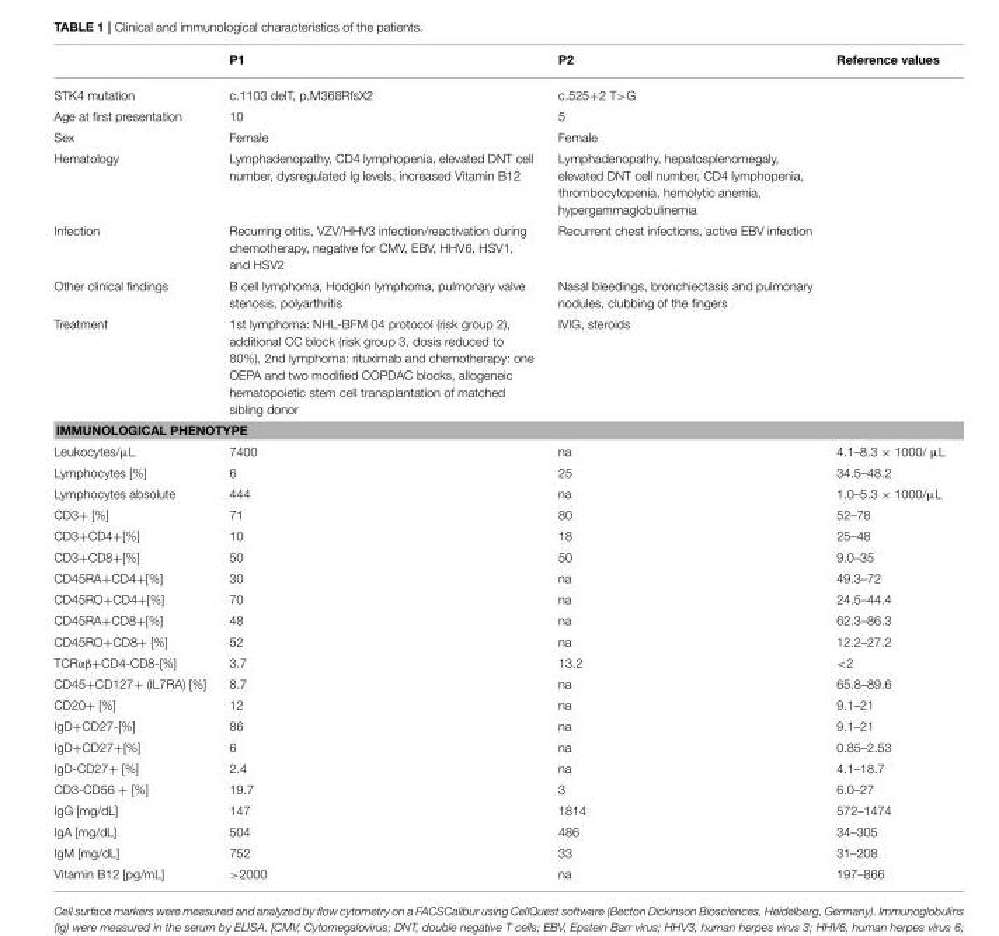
<table><thead><tr><td></td><td>P1</td><td>P2</td><td>Reference values</td></tr></thead><tbody><tr><td>STK4 mutation</td><td>c.1103 delT, p.M368RfsX2</td><td>c.525+2 T&gt;G</td><td></td></tr><tr><td>Age at first presentation</td><td>10</td><td>5</td><td></td></tr><tr><td>Sex</td><td>Female</td><td>Female</td><td></td></tr><tr><td>Hematology</td><td>Lymphadenopathy, CD4 lymphopenia, elevated DNT cell number, dysregulated Ig levels, increased Vitamin B12</td><td>Lymphadenopathy, hepatosplenomegaly, elevated DNT cell number, CD4 lymphopenia, thrombocytopenia, hemolytic anemia, hypergammaglobulinemia</td><td></td></tr><tr><td>Infection</td><td>Recurring otitis, VZV/HHV3 infection/reactivation during chemotherapy, negative for CMV, EBV, HHV6, HSV1, and HSV2</td><td>Recurrent chest infections, active EBV infection</td><td></td></tr><tr><td>Other clinical findings</td><td>B cell lymphoma, Hodgkin lymphoma, pulmonary valve stenosis, polyarthritis</td><td>Nasal bleedings, bronchiectasis and pulmonary nodules, clubbing of the fingers</td><td></td></tr><tr><td>Treatment</td><td>1st lymphoma: NHL-BFM 04 protocol (risk group 2), additional CC block (risk group 3, dosis reduced to 80%), 2nd lymphoma: rituximab and chemotherapy: one OEPA and two modified COPDAC blocks, allogeneic hematopoietic stem cell transplantation of matched sibling donor</td><td>IVIG, steroids</td><td></td></tr><tr><td colspan="4">IMMUNOLOGICAL PHENOTYPE</td></tr><tr><td>Leukocytes/µL</td><td>7400</td><td>na</td><td>4.1–8.3 × 1000/ µL</td></tr><tr><td>Lymphocytes [%]</td><td>6</td><td>25</td><td>34.5–48.2</td></tr><tr><td>Lymphocytes absolute</td><td>444</td><td>na</td><td>1.0–5.3 × 1000/µL</td></tr><tr><td>CD3+ [%]</td><td>71</td><td>80</td><td>52–78</td></tr><tr><td>CD3+CD4+[%]</td><td>10</td><td>18</td><td>25–48</td></tr><tr><td>CD3+CD8+[%]</td><td>50</td><td>50</td><td>9.0–35</td></tr><tr><td>CD45RA+CD4+[%]</td><td>30</td><td>na</td><td>49.3–72</td></tr><tr><td>CD45RO+CD4+[%]</td><td>70</td><td>na</td><td>24.5–44.4</td></tr><tr><td>CD45RA+CD8+[%]</td><td>48</td><td>na</td><td>62.3–86.3</td></tr><tr><td>CD45RO+CD8+ [%]</td><td>52</td><td>na</td><td>12.2–27.2</td></tr><tr><td>TCRαβ+CD4-CD8-[%]</td><td>3.7</td><td>13.2</td><td>&lt;2</td></tr><tr><td>CD45+CD127+ (IL7RA) [%]</td><td>8.7</td><td>na</td><td>65.8–89.6</td></tr><tr><td>CD20+ [%]</td><td>12</td><td>na</td><td>9.1–21</td></tr><tr><td>IgD+CD27-[%]</td><td>86</td><td>na</td><td>9.1–21</td></tr><tr><td>IgD+CD27+[%]</td><td>6</td><td>na</td><td>0.85–2.53</td></tr><tr><td>IgD-CD27+ [%]</td><td>2.4</td><td>na</td><td>4.1–18.7</td></tr><tr><td>CD3-CD56 + [%]</td><td>19.7</td><td>3</td><td>6.0–27</td></tr><tr><td>IgG [mg/dL]</td><td>147</td><td>1814</td><td>572–1474</td></tr><tr><td>IgA [mg/dL]</td><td>504</td><td>486</td><td>34–305</td></tr><tr><td>IgM [mg/dL]</td><td>752</td><td>33</td><td>31–208</td></tr><tr><td>Vitamin B12 [pg/mL]</td><td>&gt;2000</td><td>na</td><td>197–866</td></tr></tbody></table>